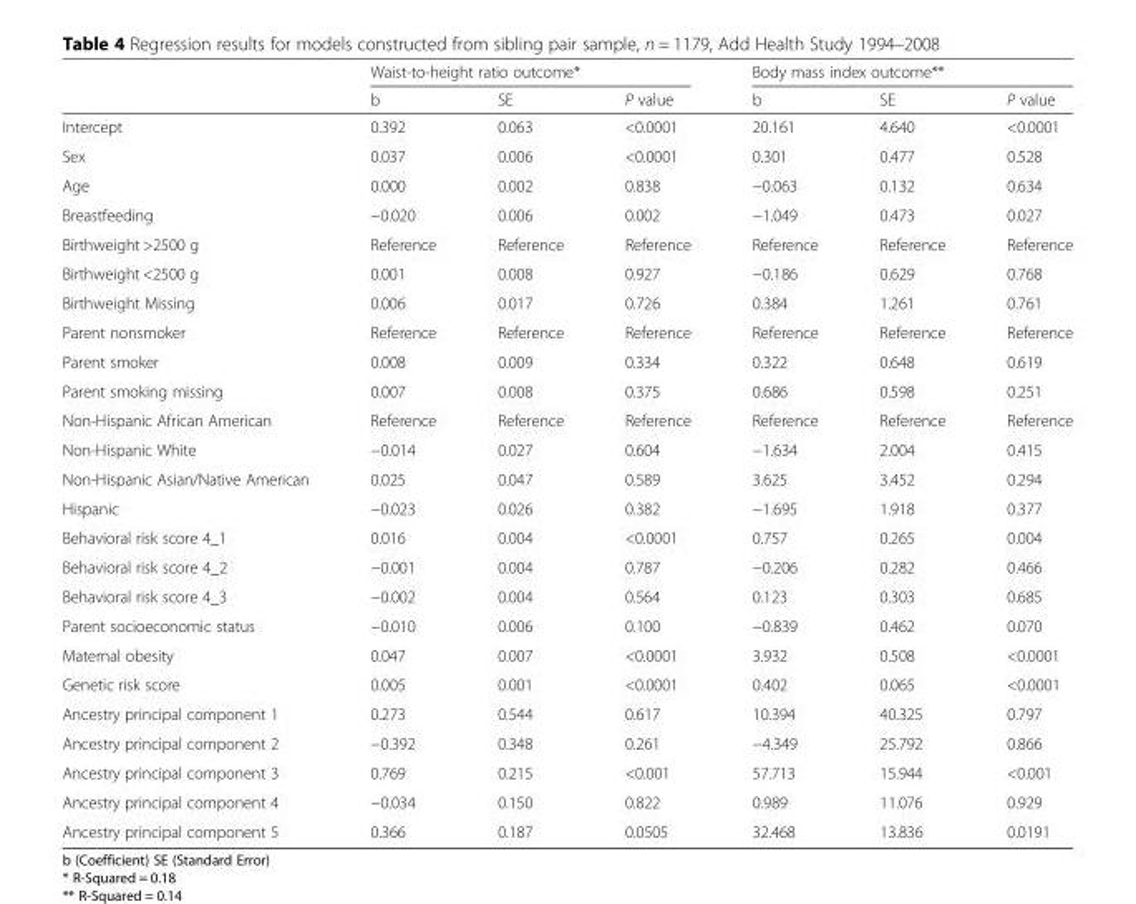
<table><thead><tr><td rowspan="2"></td><td colspan="3">Waist-to-height ratio outcome*</td><td colspan="3">Body mass index outcome**</td></tr><tr><td>b</td><td>SE</td><td>P value</td><td>b</td><td>SE</td><td>P value</td></tr></thead><tbody><tr><td>Intercept</td><td>0.392</td><td>0.063</td><td>&lt;0.0001</td><td>20.161</td><td>4.640</td><td>&lt;0.0001</td></tr><tr><td>Sex</td><td>0.037</td><td>0.006</td><td>&lt;0.0001</td><td>0.301</td><td>0.477</td><td>0.528</td></tr><tr><td>Age</td><td>0.000</td><td>0.002</td><td>0.838</td><td>−0.063</td><td>0.132</td><td>0.634</td></tr><tr><td>Breastfeeding</td><td>−0.020</td><td>0.006</td><td>0.002</td><td>−1.049</td><td>0.473</td><td>0.027</td></tr><tr><td>Birthweight &gt;2500 g</td><td>Reference</td><td>Reference</td><td>Reference</td><td>Reference</td><td>Reference</td><td>Reference</td></tr><tr><td>Birthweight &lt;2500 g</td><td>0.001</td><td>0.008</td><td>0.927</td><td>−0.186</td><td>0.629</td><td>0.768</td></tr><tr><td>Birthweight Missing</td><td>0.006</td><td>0.017</td><td>0.726</td><td>0.384</td><td>1.261</td><td>0.761</td></tr><tr><td>Parent nonsmoker</td><td>Reference</td><td>Reference</td><td>Reference</td><td>Reference</td><td>Reference</td><td>Reference</td></tr><tr><td>Parent smoker</td><td>0.008</td><td>0.009</td><td>0.334</td><td>0.322</td><td>0.648</td><td>0.619</td></tr><tr><td>Parent smoking missing</td><td>0.007</td><td>0.008</td><td>0.375</td><td>0.686</td><td>0.598</td><td>0.251</td></tr><tr><td>Non-Hispanic African American</td><td>Reference</td><td>Reference</td><td>Reference</td><td>Reference</td><td>Reference</td><td>Reference</td></tr><tr><td>Non-Hispanic White</td><td>−0.014</td><td>0.027</td><td>0.604</td><td>−1.634</td><td>2.004</td><td>0.415</td></tr><tr><td>Non-Hispanic Asian/Native American</td><td>0.025</td><td>0.047</td><td>0.589</td><td>3.625</td><td>3.452</td><td>0.294</td></tr><tr><td>Hispanic</td><td>−0.023</td><td>0.026</td><td>0.382</td><td>−1.695</td><td>1.918</td><td>0.377</td></tr><tr><td>Behavioral risk score 4_1</td><td>0.016</td><td>0.004</td><td>&lt;0.0001</td><td>0.757</td><td>0.265</td><td>0.004</td></tr><tr><td>Behavioral risk score 4_2</td><td>−0.001</td><td>0.004</td><td>0.787</td><td>−0.206</td><td>0.282</td><td>0.466</td></tr><tr><td>Behavioral risk score 4_3</td><td>−0.002</td><td>0.004</td><td>0.564</td><td>0.123</td><td>0.303</td><td>0.685</td></tr><tr><td>Parent socioeconomic status</td><td>−0.010</td><td>0.006</td><td>0.100</td><td>−0.839</td><td>0.462</td><td>0.070</td></tr><tr><td>Maternal obesity</td><td>0.047</td><td>0.007</td><td>&lt;0.0001</td><td>3.932</td><td>0.508</td><td>&lt;0.0001</td></tr><tr><td>Genetic risk score</td><td>0.005</td><td>0.001</td><td>&lt;0.0001</td><td>0.402</td><td>0.065</td><td>&lt;0.0001</td></tr><tr><td>Ancestry principal component 1</td><td>0.273</td><td>0.544</td><td>0.617</td><td>10.394</td><td>40.325</td><td>0.797</td></tr><tr><td>Ancestry principal component 2</td><td>−0.392</td><td>0.348</td><td>0.261</td><td>−4.349</td><td>25.792</td><td>0.866</td></tr><tr><td>Ancestry principal component 3</td><td>0.769</td><td>0.215</td><td>&lt;0.001</td><td>57.713</td><td>15.944</td><td>&lt;0.001</td></tr><tr><td>Ancestry principal component 4</td><td>−0.034</td><td>0.150</td><td>0.822</td><td>0.989</td><td>11.076</td><td>0.929</td></tr><tr><td>Ancestry principal component 5</td><td>0.366</td><td>0.187</td><td>0.0505</td><td>32.468</td><td>13.836</td><td>0.0191</td></tr></tbody></table>